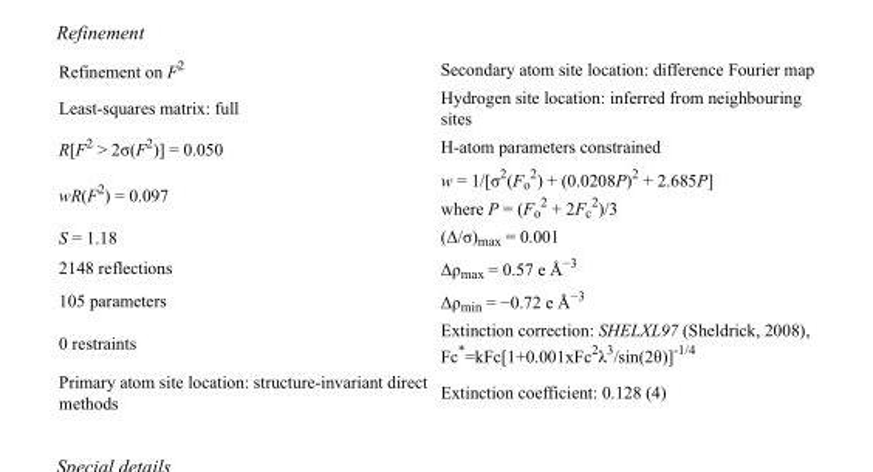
<table><tbody><tr><td>Refinement on F<sup>2</sup></td><td>Secondary atom site location: difference Fourier map</td></tr><tr><td>Least-squares matrix: full</td><td>Hydrogen site location: inferred from neighbouring sites</td></tr><tr><td>R[F<sup>2</sup> &gt; 2σ(F<sup>2</sup>)] = 0.050</td><td>H-atom parameters constrained</td></tr><tr><td>wR(F<sup>2</sup>) = 0.097</td><td>w = 1/[σ<sup>2</sup>(F<sub>o</sub> <sup>2</sup>) + (0.0208P)<sup>2</sup> + 2.685P] where P = (F<sub>o</sub> <sup>2</sup> + 2F<sub>c</sub> <sup>2</sup>)/3</td></tr><tr><td>S = 1.18</td><td>(Δ/σ)<sub>max</sub> = 0.001</td></tr><tr><td>2148 reflections</td><td>Δρ<sub>max</sub> = 0.57 e Å<sup>−3</sup></td></tr><tr><td>105 parameters</td><td>Δρmin = −0.72 e Å−3</td></tr><tr><td>0 restraints</td><td>Extinction correction: SHELXL97 (Sheldrick, 2008), Fc*=kFc[1+0.001xFc<sup>2</sup>λ<sup>3</sup>/sin(2θ)]<sup>-1/4</sup></td></tr><tr><td>Primary atom site location: structure-invariant direct methods</td><td>Extinction coefficient: 0.128 (4)</td></tr></tbody></table>